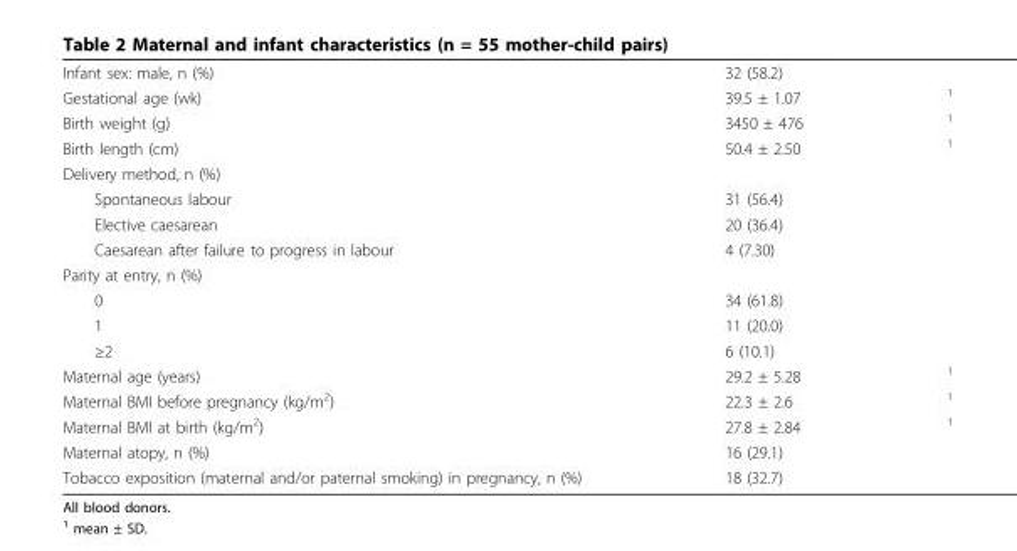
<table><tbody><tr><td>Infant sex: male, n (%)</td><td>32 (58.2)</td><td></td></tr><tr><td>Gestational age (wk)</td><td>39.5 ± 1.07</td><td><sup>1</sup></td></tr><tr><td>Birth weight (g)</td><td>3450 ± 476</td><td><sup>1</sup></td></tr><tr><td>Birth length (cm)</td><td>50.4 ± 2.50</td><td><sup>1</sup></td></tr><tr><td colspan="3">Delivery method, n (%)</td></tr><tr><td>Spontaneous labour</td><td>31 (56.4)</td><td></td></tr><tr><td>Elective caesarean</td><td>20 (36.4)</td><td></td></tr><tr><td>Caesarean after failure to progress in labour</td><td>4 (7.30)</td><td></td></tr><tr><td colspan="3">Parity at entry, n (%)</td></tr><tr><td>0</td><td>34 (61.8)</td><td></td></tr><tr><td>1</td><td>11 (20.0)</td><td></td></tr><tr><td>≥2</td><td>6 (10.1)</td><td></td></tr><tr><td>Maternal age (years)</td><td>29.2 ± 5.28</td><td><sup>1</sup></td></tr><tr><td>Maternal BMI before pregnancy (kg/m<sup>2</sup>)</td><td>22.3 ± 2.6</td><td><sup>1</sup></td></tr><tr><td>Maternal BMI at birth (kg/m<sup>2</sup>)</td><td>27.8 ± 2.84</td><td><sup>1</sup></td></tr><tr><td>Maternal atopy, n (%)</td><td>16 (29.1)</td><td></td></tr><tr><td>Tobacco exposition (maternal and/or paternal smoking) in pregnancy, n (%)</td><td>18 (32.7)</td><td></td></tr></tbody></table>